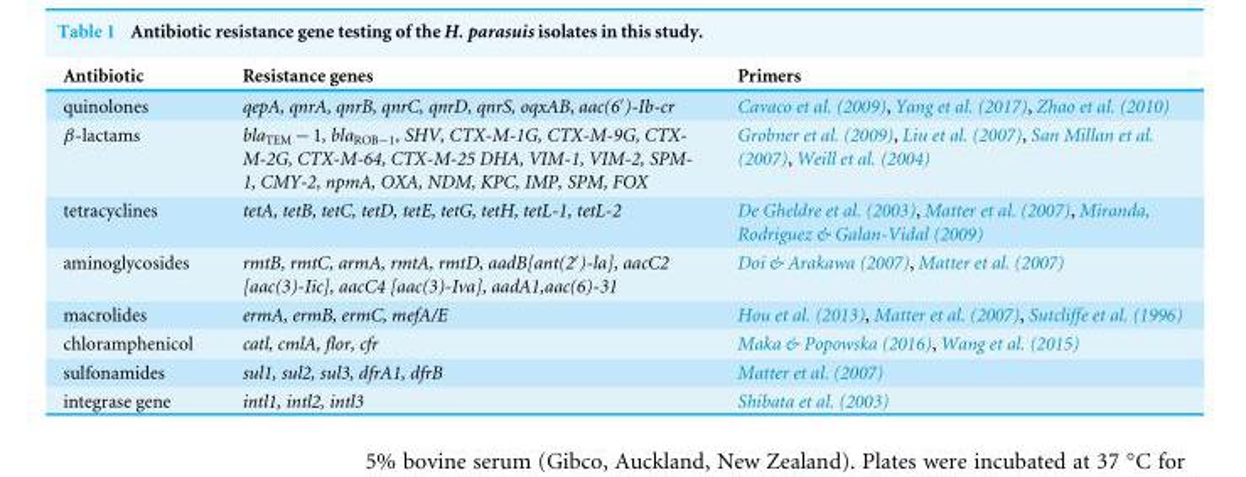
<table><thead><tr><td>Antibiotic</td><td>Resistance genes</td><td>Primers</td></tr></thead><tbody><tr><td>quinolones</td><td>qepA, qnrA, qnrB, qnrC, qnrD, qnrS, oqxAB, aac(6′)-Ib-cr</td><td>Cavaco et al. (2009), Yang et al. (2017), Zhao et al. (2010)</td></tr><tr><td>β-lactams</td><td>bla<sub>TEM</sub> −1, bla<sub>ROB−1</sub>, SHV, CTX-M-1G, CTX-M-9G, CTX- M-2G, CTX-M-64, CTX-M-25 DHA, VIM-1, VIM-2, SPM- 1, CMY-2, npmA, OXA, NDM, KPC, IMP, SPM, FOX</td><td>Grobner et al. (2009), Liu et al. (2007), San Millan et al. (2007), Weill et al. (2004)</td></tr><tr><td>tetracyclines</td><td>tetA, tetB, tetC, tetD, tetE, tetG, tetH, tetL-1, tetL-2</td><td>De Gheldre et al. (2003), Matter et al. (2007), Miranda, Rodriguez &amp; Galan-Vidal (2009)</td></tr><tr><td>aminoglycosides</td><td>rmtB, rmtC, armA, rmtA, rmtD, aadB[ant(2′)-la], aacC2 [aac(3)-Iic], aacC4 [aac(3)-Iva], aadA1,aac(6)-31</td><td>Doi &amp; Arakawa (2007), Matter et al. (2007)</td></tr><tr><td>macrolides</td><td>ermA, ermB, ermC, mefA/E</td><td>Hou et al. (2013), Matter et al. (2007), Sutcliffe et al. (1996)</td></tr><tr><td>chloramphenicol</td><td>catl, cmlA, flor, cfr</td><td>Maka &amp; Popowska (2016), Wang et al. (2015)</td></tr><tr><td>sulfonamides</td><td>sul1, sul2, sul3, dfrA1, dfrB</td><td>Matter et al. (2007)</td></tr><tr><td>integrase gene</td><td>intl1, intl2, intl3</td><td>Shibata et al. (2003)</td></tr></tbody></table>